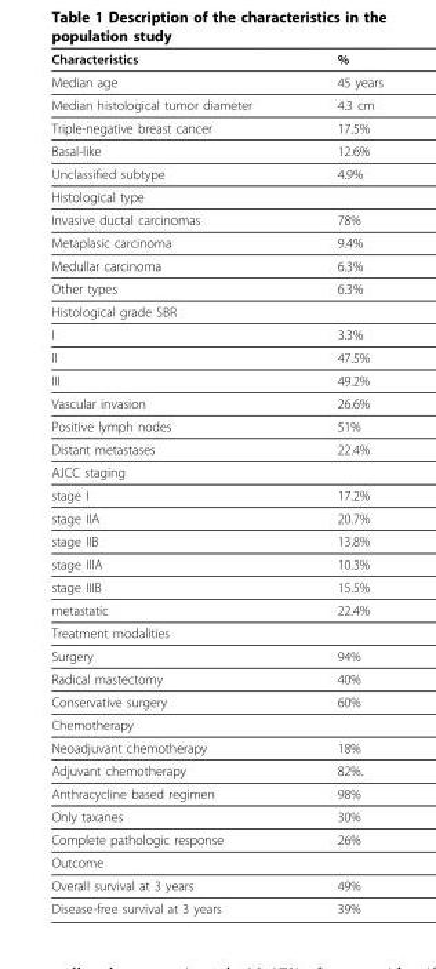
<table><thead><tr><td>Characteristics</td><td>%</td></tr></thead><tbody><tr><td>Median age</td><td>45 years</td></tr><tr><td>Median histological tumor diameter</td><td>4.3 cm</td></tr><tr><td>Triple-negative breast cancer</td><td>17.5%</td></tr><tr><td>Basal-like</td><td>12.6%</td></tr><tr><td>Unclassified subtype</td><td>4.9%</td></tr><tr><td colspan="2">Histological type</td></tr><tr><td>Invasive ductal carcinomas</td><td>78%</td></tr><tr><td>Metaplasic carcinoma</td><td>9.4%</td></tr><tr><td>Medullar carcinoma</td><td>6.3%</td></tr><tr><td>Other types</td><td>6.3%</td></tr><tr><td colspan="2">Histological grade SBR</td></tr><tr><td>I</td><td>3.3%</td></tr><tr><td>II</td><td>47.5%</td></tr><tr><td>III</td><td>49.2%</td></tr><tr><td>Vascular invasion</td><td>26.6%</td></tr><tr><td>Positive lymph nodes</td><td>51%</td></tr><tr><td>Distant metastases</td><td>22.4%</td></tr><tr><td colspan="2">AJCC staging</td></tr><tr><td>stage I</td><td>17.2%</td></tr><tr><td>stage IIA</td><td>20.7%</td></tr><tr><td>stage IIB</td><td>13.8%</td></tr><tr><td>stage IIIA</td><td>10.3%</td></tr><tr><td>stage IIIB</td><td>15.5%</td></tr><tr><td>metastatic</td><td>22.4%</td></tr><tr><td colspan="2">Treatment modalities</td></tr><tr><td>Surgery</td><td>94%</td></tr><tr><td>Radical mastectomy</td><td>40%</td></tr><tr><td>Conservative surgery</td><td>60%</td></tr><tr><td colspan="2">Chemotherapy</td></tr><tr><td>Neoadjuvant chemotherapy</td><td>18%</td></tr><tr><td>Adjuvant chemotherapy</td><td>82%.</td></tr><tr><td>Anthracycline based regimen</td><td>98%</td></tr><tr><td>Only taxanes</td><td>30%</td></tr><tr><td>Complete pathologic response</td><td>26%</td></tr><tr><td colspan="2">Outcome</td></tr><tr><td>Overall survival at 3 years</td><td>49%</td></tr><tr><td>Disease-free survival at 3 years</td><td>39%</td></tr></tbody></table>